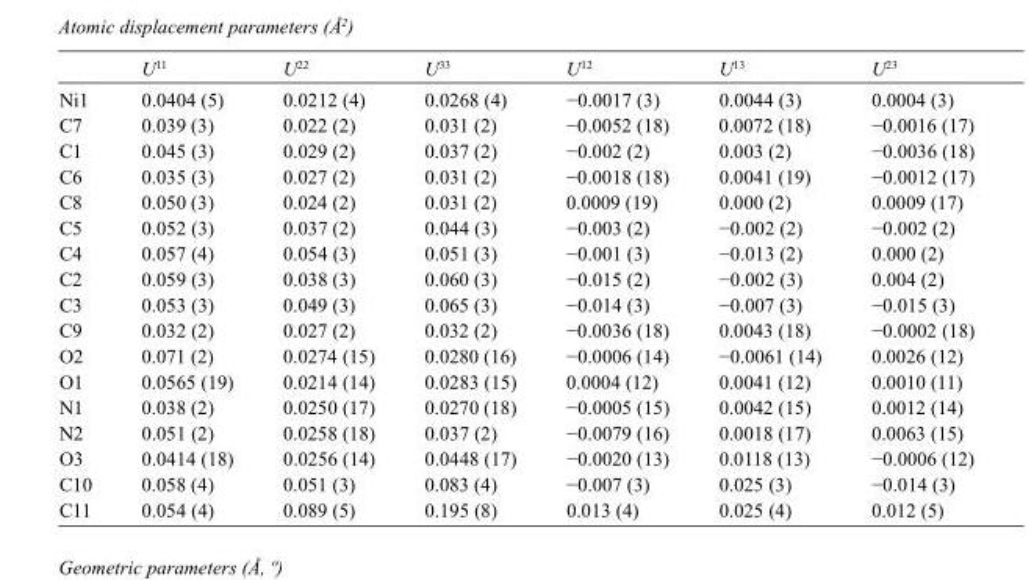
<table><thead><tr><td></td><td>U<sup>11</sup></td><td>U<sup>22</sup></td><td>U<sup>33</sup></td><td>U<sup>12</sup></td><td>U<sup>13</sup></td><td>U<sup>23</sup></td></tr></thead><tbody><tr><td>Ni1</td><td>0.0404 (5)</td><td>0.0212 (4)</td><td>0.0268 (4)</td><td>−0.0017 (3)</td><td>0.0044 (3)</td><td>0.0004 (3)</td></tr><tr><td>C7</td><td>0.039 (3)</td><td>0.022 (2)</td><td>0.031 (2)</td><td>−0.0052 (18)</td><td>0.0072 (18)</td><td>−0.0016 (17)</td></tr><tr><td>C1</td><td>0.045 (3)</td><td>0.029 (2)</td><td>0.037 (2)</td><td>−0.002 (2)</td><td>0.003 (2)</td><td>−0.0036 (18)</td></tr><tr><td>C6</td><td>0.035 (3)</td><td>0.027 (2)</td><td>0.031 (2)</td><td>−0.0018 (18)</td><td>0.0041 (19)</td><td>−0.0012 (17)</td></tr><tr><td>C8</td><td>0.050 (3)</td><td>0.024 (2)</td><td>0.031 (2)</td><td>0.0009 (19)</td><td>0.000 (2)</td><td>0.0009 (17)</td></tr><tr><td>C5</td><td>0.052 (3)</td><td>0.037 (2)</td><td>0.044 (3)</td><td>−0.003 (2)</td><td>−0.002 (2)</td><td>−0.002 (2)</td></tr><tr><td>C4</td><td>0.057 (4)</td><td>0.054 (3)</td><td>0.051 (3)</td><td>−0.001 (3)</td><td>−0.013 (2)</td><td>0.000 (2)</td></tr><tr><td>C2</td><td>0.059 (3)</td><td>0.038 (3)</td><td>0.060 (3)</td><td>−0.015 (2)</td><td>−0.002 (3)</td><td>0.004 (2)</td></tr><tr><td>C3</td><td>0.053 (3)</td><td>0.049 (3)</td><td>0.065 (3)</td><td>−0.014 (3)</td><td>−0.007 (3)</td><td>−0.015 (3)</td></tr><tr><td>C9</td><td>0.032 (2)</td><td>0.027 (2)</td><td>0.032 (2)</td><td>−0.0036 (18)</td><td>0.0043 (18)</td><td>−0.0002 (18)</td></tr><tr><td>O2</td><td>0.071 (2)</td><td>0.0274 (15)</td><td>0.0280 (16)</td><td>−0.0006 (14)</td><td>−0.0061 (14)</td><td>0.0026 (12)</td></tr><tr><td>O1</td><td>0.0565 (19)</td><td>0.0214 (14)</td><td>0.0283 (15)</td><td>0.0004 (12)</td><td>0.0041 (12)</td><td>0.0010 (11)</td></tr><tr><td>N1</td><td>0.038 (2)</td><td>0.0250 (17)</td><td>0.0270 (18)</td><td>−0.0005 (15)</td><td>0.0042 (15)</td><td>0.0012 (14)</td></tr><tr><td>N2</td><td>0.051 (2)</td><td>0.0258 (18)</td><td>0.037 (2)</td><td>−0.0079 (16)</td><td>0.0018 (17)</td><td>0.0063 (15)</td></tr><tr><td>O3</td><td>0.0414 (18)</td><td>0.0256 (14)</td><td>0.0448 (17)</td><td>−0.0020 (13)</td><td>0.0118 (13)</td><td>−0.0006 (12)</td></tr><tr><td>C10</td><td>0.058 (4)</td><td>0.051 (3)</td><td>0.083 (4)</td><td>−0.007 (3)</td><td>0.025 (3)</td><td>−0.014 (3)</td></tr><tr><td>C11</td><td>0.054 (4)</td><td>0.089 (5)</td><td>0.195 (8)</td><td>0.013 (4)</td><td>0.025 (4)</td><td>0.012 (5)</td></tr></tbody></table>